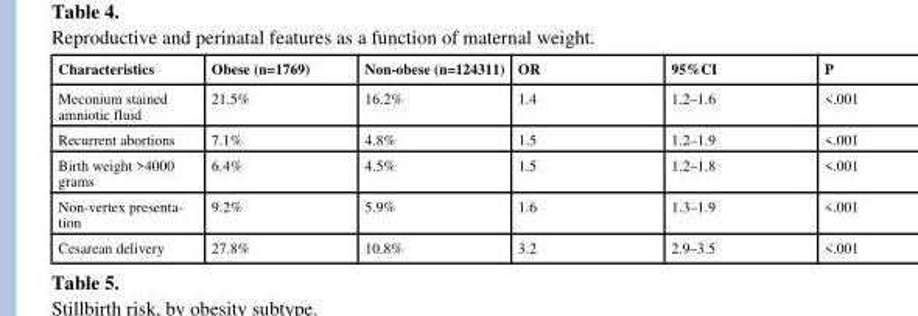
<table><thead><tr><td>Characteristics</td><td>Obese (n=1769)</td><td>Non-obese (n=124311)</td><td>OR</td><td>95%CI</td><td>P</td></tr></thead><tbody><tr><td>Meconium stained amniotic fluid</td><td>21.5%</td><td>16.2%</td><td>1.4</td><td>1.2–1.6</td><td>&lt;.001</td></tr><tr><td>Recurrent abortions</td><td>7.1%</td><td>4.8%</td><td>1.5</td><td>1.2–1.9</td><td>&lt;.001</td></tr><tr><td>Birth weight &gt;4000 grams</td><td>6.4%</td><td>4.5%</td><td>1.5</td><td>1.2–1.8</td><td>&lt;.001</td></tr><tr><td>Non-vertex presenta- tion</td><td>9.2%</td><td>5.9%</td><td>1.6</td><td>1.3–1.9</td><td>&lt;.001</td></tr><tr><td>Cesarean delivery</td><td>27.8%</td><td>10.8%</td><td>3.2</td><td>2.9–3.5</td><td>&lt;.001</td></tr></tbody></table>